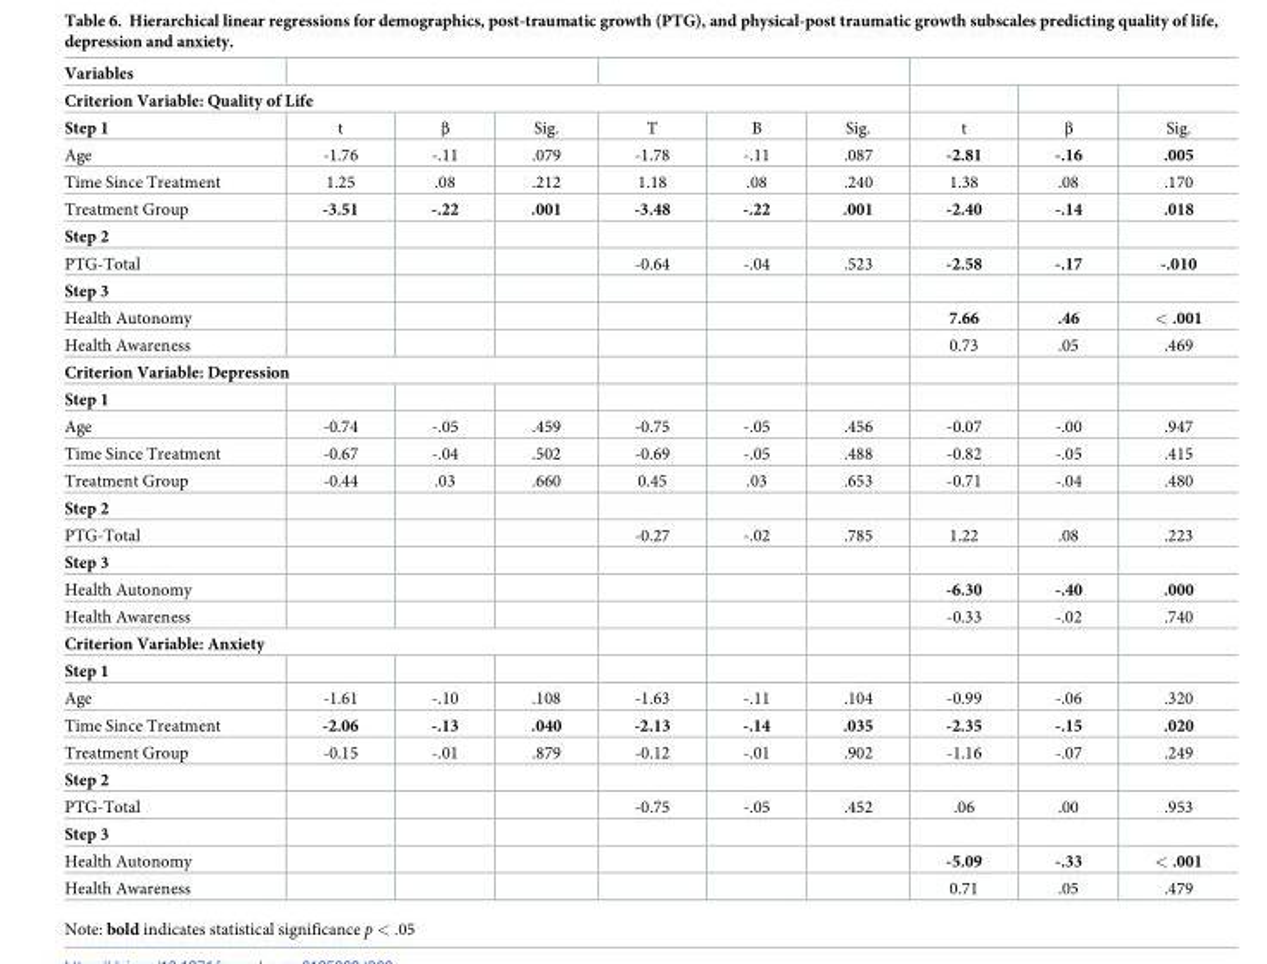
<table><thead><tr><td>Variables</td><td></td><td></td><td></td><td></td><td></td><td></td><td></td><td></td><td></td></tr></thead><tbody><tr><td colspan="10">Criterion Variable: Quality of Life</td></tr><tr><td>Step 1</td><td>t</td><td>β</td><td>Sig.</td><td>T</td><td>B</td><td>Sig.</td><td>t</td><td>β</td><td>Sig.</td></tr><tr><td>Age</td><td>-1.76</td><td>-.11</td><td>.079</td><td>-1.78</td><td>-.11</td><td>.087</td><td>-2.81</td><td>-.16</td><td>.005</td></tr><tr><td>Time Since Treatment</td><td>1.25</td><td>.08</td><td>.212</td><td>1.18</td><td>.08</td><td>.240</td><td>1.38</td><td>.08</td><td>.170</td></tr><tr><td>Treatment Group</td><td>-3.51</td><td>-.22</td><td>.001</td><td>-3.48</td><td>-.22</td><td>.001</td><td>-2.40</td><td>-.14</td><td>.018</td></tr><tr><td colspan="10">Step 2</td></tr><tr><td>PTG-Total</td><td></td><td></td><td></td><td>-0.64</td><td>-.04</td><td>.523</td><td>-2.58</td><td>-.17</td><td>-.010</td></tr><tr><td colspan="10">Step 3</td></tr><tr><td>Health Autonomy</td><td></td><td></td><td></td><td></td><td></td><td></td><td>7.66</td><td>.46</td><td>&lt; .001</td></tr><tr><td>Health Awareness</td><td></td><td></td><td></td><td></td><td></td><td></td><td>0.73</td><td>.05</td><td>.469</td></tr><tr><td colspan="10">Criterion Variable: Depression</td></tr><tr><td colspan="10">Step 1</td></tr><tr><td>Age</td><td>-0.74</td><td>-.05</td><td>.459</td><td>-0.75</td><td>-.05</td><td>.456</td><td>-0.07</td><td>-.00</td><td>.947</td></tr><tr><td>Time Since Treatment</td><td>-0.67</td><td>-.04</td><td>.502</td><td>-0.69</td><td>-.05</td><td>.488</td><td>-0.82</td><td>-.05</td><td>.415</td></tr><tr><td>Treatment Group</td><td>-0.44</td><td>.03</td><td>.660</td><td>0.45</td><td>.03</td><td>.653</td><td>-0.71</td><td>-.04</td><td>.480</td></tr><tr><td colspan="10">Step 2</td></tr><tr><td>PTG-Total</td><td></td><td></td><td></td><td>-0.27</td><td>-.02</td><td>.785</td><td>1.22</td><td>.08</td><td>.223</td></tr><tr><td colspan="10">Step 3</td></tr><tr><td>Health Autonomy</td><td></td><td></td><td></td><td></td><td></td><td></td><td>-6.30</td><td>-.40</td><td>.000</td></tr><tr><td>Health Awareness</td><td></td><td></td><td></td><td></td><td></td><td></td><td>-0.33</td><td>-.02</td><td>.740</td></tr><tr><td colspan="10">Criterion Variable: Anxiety</td></tr><tr><td colspan="10">Step 1</td></tr><tr><td>Age</td><td>-1.61</td><td>-.10</td><td>.108</td><td>-1.63</td><td>-.11</td><td>.104</td><td>-0.99</td><td>-.06</td><td>.320</td></tr><tr><td>Time Since Treatment</td><td>-2.06</td><td>-.13</td><td>.040</td><td>-2.13</td><td>-.14</td><td>.035</td><td>-2.35</td><td>-.15</td><td>.020</td></tr><tr><td>Treatment Group</td><td>-0.15</td><td>-.01</td><td>.879</td><td>-0.12</td><td>-.01</td><td>.902</td><td>-1.16</td><td>-.07</td><td>.249</td></tr><tr><td colspan="10">Step 2</td></tr><tr><td>PTG-Total</td><td></td><td></td><td></td><td>-0.75</td><td>-.05</td><td>.452</td><td>.06</td><td>.00</td><td>.953</td></tr><tr><td colspan="10">Step 3</td></tr><tr><td>Health Autonomy</td><td></td><td></td><td></td><td></td><td></td><td></td><td>-5.09</td><td>-.33</td><td>&lt; .001</td></tr><tr><td>Health Awareness</td><td></td><td></td><td></td><td></td><td></td><td></td><td>0.71</td><td>.05</td><td>.479</td></tr></tbody></table>